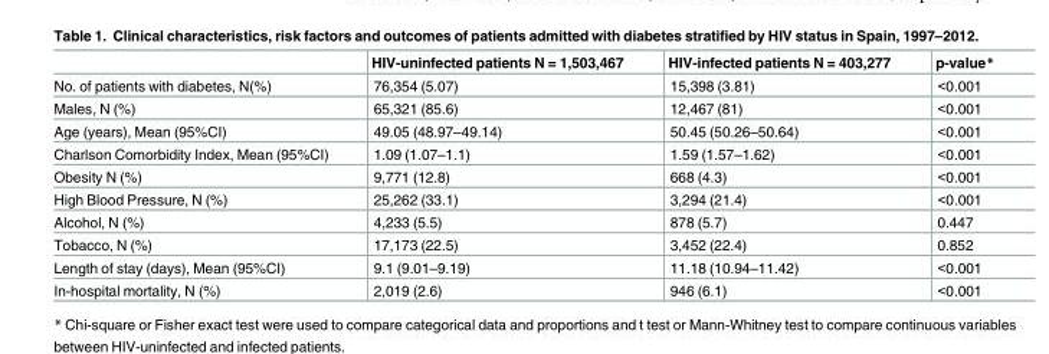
<table><thead><tr><td></td><td>HIV-uninfected patients N = 1,503,467</td><td>HIV-infected patients N = 403,277</td><td>p-value*</td></tr></thead><tbody><tr><td>No. of patients with diabetes, N(%)</td><td>76,354 (5.07)</td><td>15,398 (3.81)</td><td>&lt;0.001</td></tr><tr><td>Males, N (%)</td><td>65,321 (85.6)</td><td>12,467 (81)</td><td>&lt;0.001</td></tr><tr><td>Age (years), Mean (95%CI)</td><td>49.05 (48.97–49.14)</td><td>50.45 (50.26–50.64)</td><td>&lt;0.001</td></tr><tr><td>Charlson Comorbidity Index, Mean (95%CI)</td><td>1.09 (1.07–1.1)</td><td>1.59 (1.57–1.62)</td><td>&lt;0.001</td></tr><tr><td>Obesity N (%)</td><td>9,771 (12.8)</td><td>668 (4.3)</td><td>&lt;0.001</td></tr><tr><td>High Blood Pressure, N (%)</td><td>25,262 (33.1)</td><td>3,294 (21.4)</td><td>&lt;0.001</td></tr><tr><td>Alcohol, N (%)</td><td>4,233 (5.5)</td><td>878 (5.7)</td><td>0.447</td></tr><tr><td>Tobacco, N (%)</td><td>17,173 (22.5)</td><td>3,452 (22.4)</td><td>0.852</td></tr><tr><td>Length of stay (days), Mean (95%CI)</td><td>9.1 (9.01–9.19)</td><td>11.18 (10.94–11.42)</td><td>&lt;0.001</td></tr><tr><td>In-hospital mortality, N (%)</td><td>2,019 (2.6)</td><td>946 (6.1)</td><td>&lt;0.001</td></tr></tbody></table>